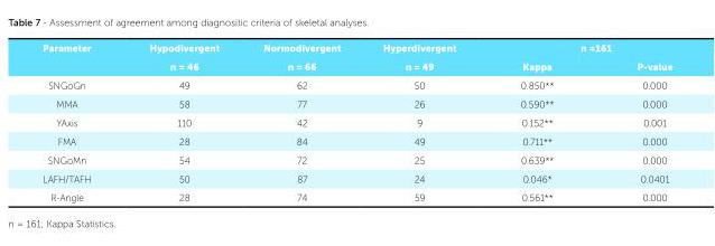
<table><tbody><tr><td rowspan="2">Parameter</td><td>Hypodivergent</td><td>Normodivergent</td><td>Hyperdivergent</td><td colspan="2">n =161</td></tr><tr><td>n = 46</td><td>n = 66</td><td>n = 49</td><td>Kappa</td><td>P-value</td></tr><tr><td>SNGoGn</td><td>49</td><td>62</td><td>50</td><td>0.850**</td><td>0.000</td></tr><tr><td>MMA</td><td>58</td><td>77</td><td>26</td><td>0.590**</td><td>0.000</td></tr><tr><td>YAxis</td><td>110</td><td>42</td><td>9</td><td>0.152**</td><td>0.001</td></tr><tr><td>FMA</td><td>28</td><td>84</td><td>49</td><td>0.711**</td><td>0.000</td></tr><tr><td>SNGoMn</td><td>54</td><td>72</td><td>25</td><td>0.639**</td><td>0.000</td></tr><tr><td>LAFH/TAFH</td><td>50</td><td>87</td><td>24</td><td>0.046*</td><td>0.0401</td></tr><tr><td>R-Angle</td><td>28</td><td>74</td><td>59</td><td>0.561**</td><td>0.000</td></tr></tbody></table>